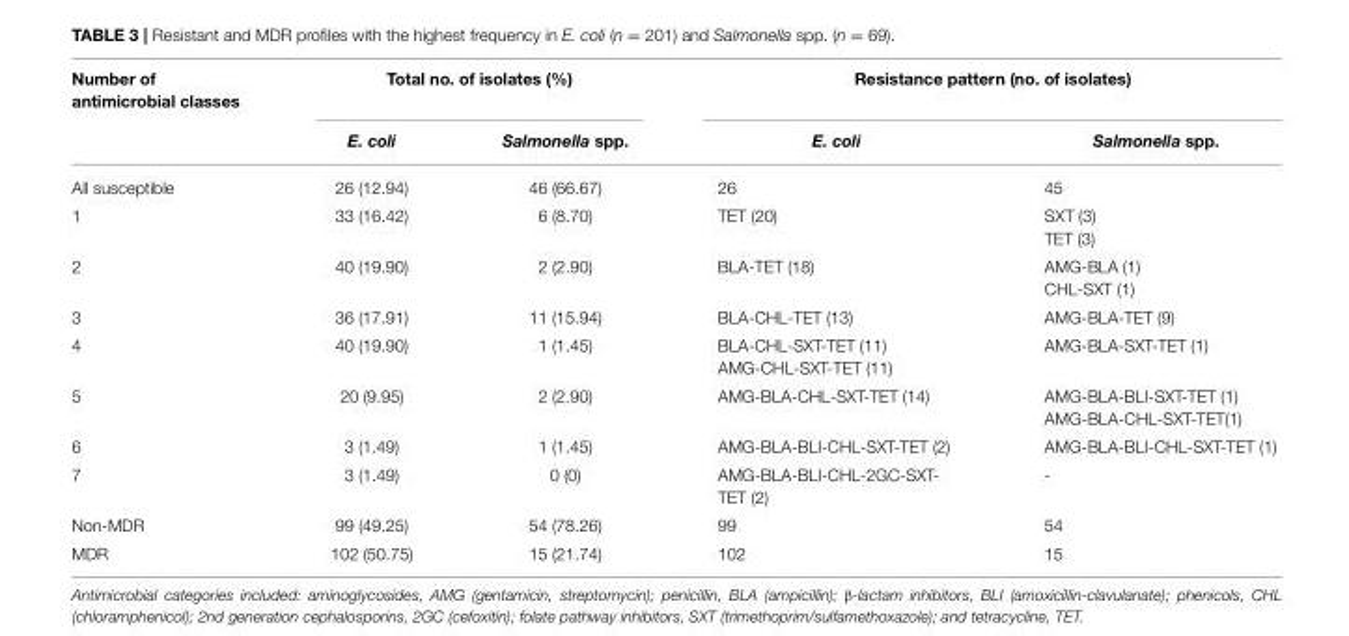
<table><thead><tr><td rowspan="2">Number of antimicrobial classes</td><td colspan="2">Total no. of isolates (%)</td><td colspan="2">Resistance pattern (no. of isolates)</td></tr><tr><td>E. coli</td><td>Salmonella spp.</td><td>E. coli</td><td>Salmonella spp.</td></tr></thead><tbody><tr><td>All susceptible</td><td>26 (12.94)</td><td>46 (66.67)</td><td>26</td><td>45</td></tr><tr><td>1</td><td>33 (16.42)</td><td>6 (8.70)</td><td>TET (20)</td><td>SXT (3) TET (3)</td></tr><tr><td>2</td><td>40 (19.90)</td><td>2 (2.90)</td><td>BLA-TET (18)</td><td>AMG-BLA (1) CHL-SXT (1)</td></tr><tr><td>3</td><td>36 (17.91)</td><td>11 (15.94)</td><td>BLA-CHL-TET (13)</td><td>AMG-BLA-TET (9)</td></tr><tr><td>4</td><td>40 (19.90)</td><td>1 (1.45)</td><td>BLA-CHL-SXT-TET (11) AMG-CHL-SXT-TET (11)</td><td>AMG-BLA-SXT-TET (1)</td></tr><tr><td>5</td><td>20 (9.95)</td><td>2 (2.90)</td><td>AMG-BLA-CHL-SXT-TET (14)</td><td>AMG-BLA-BLI-SXT-TET (1) AMG-BLA-CHL-SXT-TET(1)</td></tr><tr><td>6</td><td>3 (1.49)</td><td>1 (1.45)</td><td>AMG-BLA-BLI-CHL-SXT-TET (2)</td><td>AMG-BLA-BLI-CHL-SXT-TET (1)</td></tr><tr><td>7</td><td>3 (1.49)</td><td>0 (0)</td><td>AMG-BLA-BLI-CHL-2GC-SXT- TET (2)</td><td>-</td></tr><tr><td>Non-MDR</td><td>99 (49.25)</td><td>54 (78.26)</td><td>99</td><td>54</td></tr><tr><td>MDR</td><td>102 (50.75)</td><td>15 (21.74)</td><td>102</td><td>15</td></tr></tbody></table>